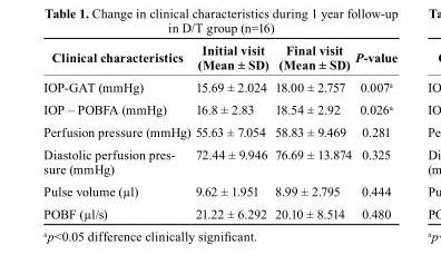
<table><thead><tr><td>clinical characteristics</td><td>Initial visit (Mean ± SD)</td><td>Final visit (Mean ± SD)</td><td>P-value</td></tr></thead><tbody><tr><td>IOP-GAT (mmHg)</td><td>15.69 ± 2.024</td><td>18.00 ± 2.757</td><td>0.007<sup>a</sup></td></tr><tr><td>IOP – POBFA (mmHg)</td><td>16.8 ± 2.83</td><td>18.54 ± 2.92</td><td>0.026<sup>a</sup></td></tr><tr><td>Perfusion pressure (mmHg)</td><td>55.63 ± 7.054</td><td>58.83 ± 9.469</td><td>0.281</td></tr><tr><td>Diastolic perfusion pres- sure (mmHg)</td><td>72.44 ± 9.946</td><td>76.69 ± 13.874</td><td>0.325</td></tr><tr><td>Pulse volume (µl)</td><td>9.62 ± 1.951</td><td>8.99 ± 2.795</td><td>0.444</td></tr><tr><td>POBF (µl/s)</td><td>21.22 ± 6.292</td><td>20.10 ± 8.514</td><td>0.480</td></tr></tbody></table>